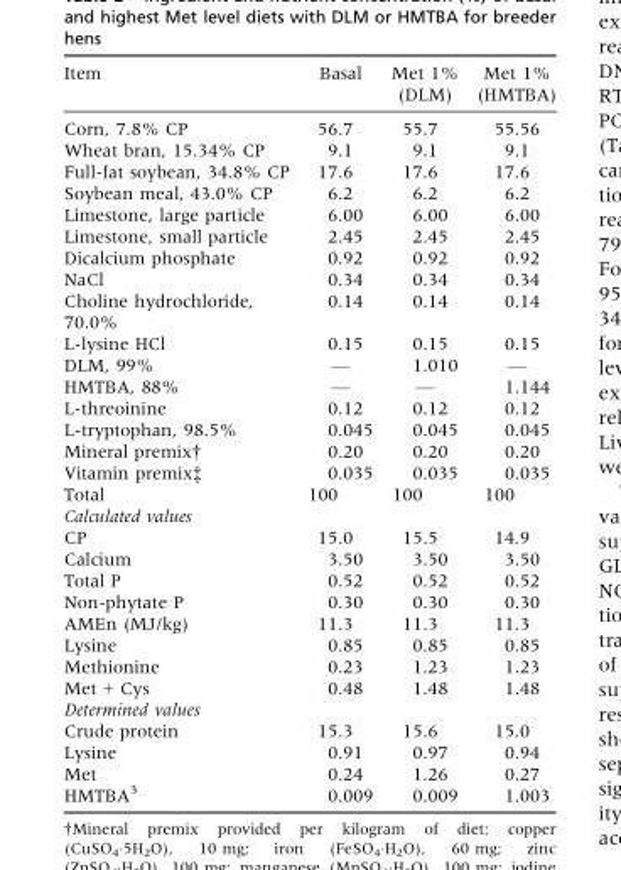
<table><thead><tr><td>Item</td><td>Basal</td><td>Met 1% (DLM)</td><td>Met 1% (HMTBA)</td></tr></thead><tbody><tr><td>Corn, 7.8% CP</td><td>56.7</td><td>55.7</td><td>55.56</td></tr><tr><td>Wheat bran, 15.34% CP</td><td>9.1</td><td>9.1</td><td>9.1</td></tr><tr><td>Full-fat soybean, 34.8% CP</td><td>17.6</td><td>17.6</td><td>17.6</td></tr><tr><td>Soybean meal, 43.0% CP</td><td>6.2</td><td>6.2</td><td>6.2</td></tr><tr><td>Limestone, large particle</td><td>6.00</td><td>6.00</td><td>6.00</td></tr><tr><td>Limestone, small particle</td><td>2.45</td><td>2.45</td><td>2.45</td></tr><tr><td>Dicalcium phosphate</td><td>0.92</td><td>0.92</td><td>0.92</td></tr><tr><td>NaCl</td><td>0.34</td><td>0.34</td><td>0.34</td></tr><tr><td>Choline hydrochloride, 70.0%</td><td>0.14</td><td>0.14</td><td>0.14</td></tr><tr><td>L-lysine HCl</td><td>0.15</td><td>0.15</td><td>0.15</td></tr><tr><td>DLM, 99%</td><td>—</td><td>1.010</td><td>—</td></tr><tr><td>HMTBA, 88%</td><td>—</td><td>—</td><td>1.144</td></tr><tr><td>L-threoinine</td><td>0.12</td><td>0.12</td><td>0.12</td></tr><tr><td>L-tryptophan, 98.5%</td><td>0.045</td><td>0.045</td><td>0.045</td></tr><tr><td>Mineral premix†</td><td>0.20</td><td>0.20</td><td>0.20</td></tr><tr><td>Vitamin premix‡</td><td>0.035</td><td>0.035</td><td>0.035</td></tr><tr><td>Total</td><td>100</td><td>100</td><td>100</td></tr><tr><td colspan="4">Calculated values</td></tr><tr><td>CP</td><td>15.0</td><td>15.5</td><td>14.9</td></tr><tr><td>Calcium</td><td>3.50</td><td>3.50</td><td>3.50</td></tr><tr><td>Total P</td><td>0.52</td><td>0.52</td><td>0.52</td></tr><tr><td>Non-phytate P</td><td>0.30</td><td>0.30</td><td>0.30</td></tr><tr><td>AMEn (MJ/kg)</td><td>11.3</td><td>11.3</td><td>11.3</td></tr><tr><td>Lysine</td><td>0.85</td><td>0.85</td><td>0.85</td></tr><tr><td>Methionine</td><td>0.23</td><td>1.23</td><td>1.23</td></tr><tr><td>Met + Cys</td><td>0.48</td><td>1.48</td><td>1.48</td></tr><tr><td colspan="4">Determined values</td></tr><tr><td>Crude protein</td><td>15.3</td><td>15.6</td><td>15.0</td></tr><tr><td>Lysine</td><td>0.91</td><td>0.97</td><td>0.94</td></tr><tr><td>Met</td><td>0.24</td><td>1.26</td><td>0.27</td></tr><tr><td>HMTBA<sup>3</sup></td><td>0.009</td><td>0.009</td><td>1.003</td></tr></tbody></table>